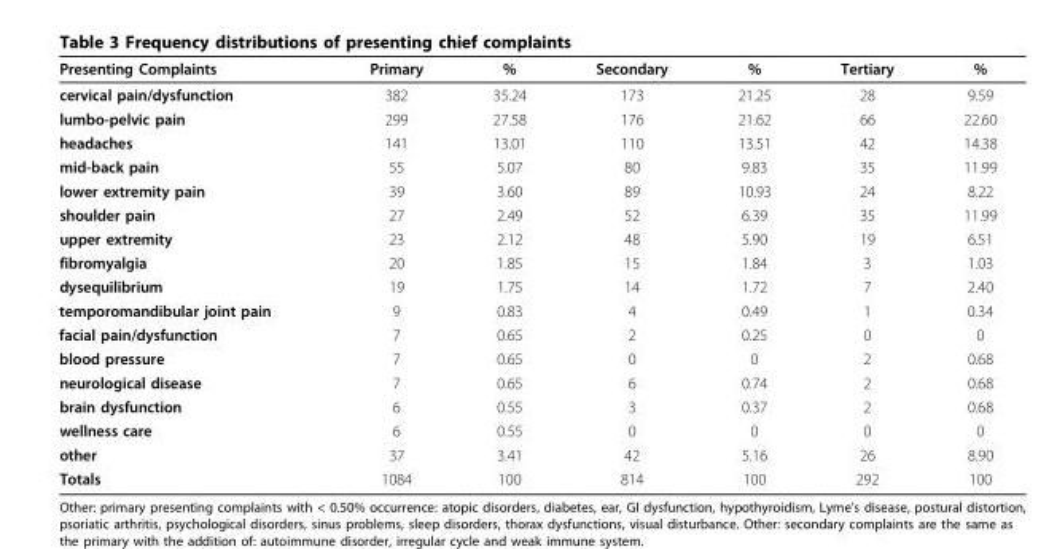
<table><thead><tr><td>Presenting Complaints</td><td>Primary</td><td>%</td><td>Secondary</td><td>%</td><td>Tertiary</td><td>%</td></tr></thead><tbody><tr><td>cervical pain/dysfunction</td><td>382</td><td>35.24</td><td>173</td><td>21.25</td><td>28</td><td>9.59</td></tr><tr><td>lumbo-pelvic pain</td><td>299</td><td>27.58</td><td>176</td><td>21.62</td><td>66</td><td>22.60</td></tr><tr><td>headaches</td><td>141</td><td>13.01</td><td>110</td><td>13.51</td><td>42</td><td>14.38</td></tr><tr><td>mid-back pain</td><td>55</td><td>5.07</td><td>80</td><td>9.83</td><td>35</td><td>11.99</td></tr><tr><td>lower extremity pain</td><td>39</td><td>3.60</td><td>89</td><td>10.93</td><td>24</td><td>8.22</td></tr><tr><td>shoulder pain</td><td>27</td><td>2.49</td><td>52</td><td>6.39</td><td>35</td><td>11.99</td></tr><tr><td>upper extremity</td><td>23</td><td>2.12</td><td>48</td><td>5.90</td><td>19</td><td>6.51</td></tr><tr><td>fibromyalgia</td><td>20</td><td>1.85</td><td>15</td><td>1.84</td><td>3</td><td>1.03</td></tr><tr><td>dysequilibrium</td><td>19</td><td>1.75</td><td>14</td><td>1.72</td><td>7</td><td>2.40</td></tr><tr><td>temporomandibular joint pain</td><td>9</td><td>0.83</td><td>4</td><td>0.49</td><td>1</td><td>0.34</td></tr><tr><td>facial pain/dysfunction</td><td>7</td><td>0.65</td><td>2</td><td>0.25</td><td>0</td><td>0</td></tr><tr><td>blood pressure</td><td>7</td><td>0.65</td><td>0</td><td>0</td><td>2</td><td>0.68</td></tr><tr><td>neurological disease</td><td>7</td><td>0.65</td><td>6</td><td>0.74</td><td>2</td><td>0.68</td></tr><tr><td>brain dysfunction</td><td>6</td><td>0.55</td><td>3</td><td>0.37</td><td>2</td><td>0.68</td></tr><tr><td>wellness care</td><td>6</td><td>0.55</td><td>0</td><td>0</td><td>0</td><td>0</td></tr><tr><td>other</td><td>37</td><td>3.41</td><td>42</td><td>5.16</td><td>26</td><td>8.90</td></tr><tr><td>Totals</td><td>1084</td><td>100</td><td>814</td><td>100</td><td>292</td><td>100</td></tr></tbody></table>